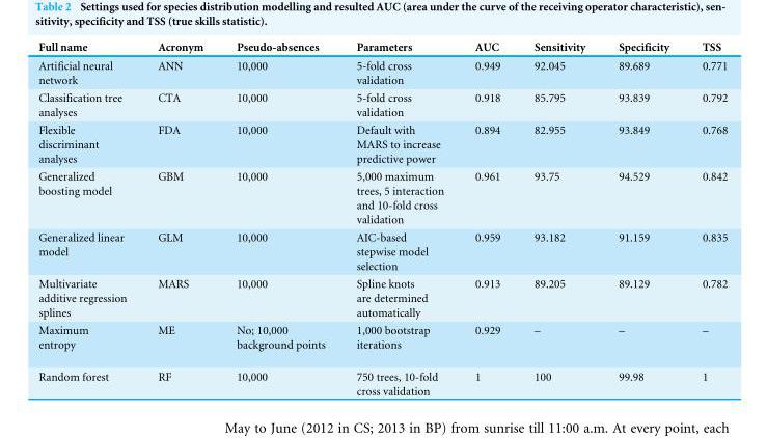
<table><thead><tr><td>Full name</td><td>Acronym</td><td>Pseudo-absences</td><td>Parameters</td><td>AUC</td><td>Sensitivity</td><td>Specificity</td><td>TSS</td></tr></thead><tbody><tr><td>Artificial neural network</td><td>ANN</td><td>10,000</td><td>5-fold cross validation</td><td>0.949</td><td>92.045</td><td>89.689</td><td>0.771</td></tr><tr><td>Classification tree analyses</td><td>CTA</td><td>10,000</td><td>5-fold cross validation</td><td>0.918</td><td>85.795</td><td>93.839</td><td>0.792</td></tr><tr><td>Flexible discriminant analyses</td><td>FDA</td><td>10,000</td><td>Default with MARS to increase predictive power</td><td>0.894</td><td>82.955</td><td>93.849</td><td>0.768</td></tr><tr><td>Generalized boosting model</td><td>GBM</td><td>10,000</td><td>5,000 maximum trees, 5 interaction and 10-fold cross validation</td><td>0.961</td><td>93.75</td><td>94.529</td><td>0.842</td></tr><tr><td>Generalized linear model</td><td>GLM</td><td>10,000</td><td>AIC-based stepwise model selection</td><td>0.959</td><td>93.182</td><td>91.159</td><td>0.835</td></tr><tr><td>Multivariate additive regression splines</td><td>MARS</td><td>10,000</td><td>Spline knots are determined automatically</td><td>0.913</td><td>89.205</td><td>89.129</td><td>0.782</td></tr><tr><td>Maximum entropy</td><td>ME</td><td>No; 10,000 background points</td><td>1,000 bootstrap iterations</td><td>0.929</td><td>–</td><td>–</td><td>–</td></tr><tr><td>Random forest</td><td>RF</td><td>10,000</td><td>750 trees, 10-fold cross validation</td><td>1</td><td>100</td><td>99.98</td><td>1</td></tr></tbody></table>